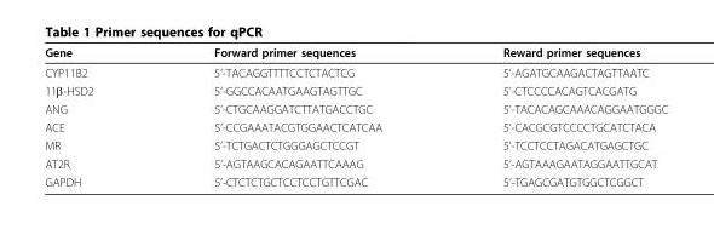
<table><thead><tr><td>Gene</td><td>Forward primer sequences</td><td>Reward primer sequences</td></tr></thead><tbody><tr><td>CYP11B2</td><td>5’-TACAGGTTTTCCTCTACTCG</td><td>5’-AGATGCAAGACTAGTTAATC</td></tr><tr><td>11β-HSD2</td><td>5’-GGCCACAATGAAGTAGTTGC</td><td>5’-CTCCCCACAGTCACGATG</td></tr><tr><td>ANG</td><td>5’-CTGCAAGGATCTTATGACCTGC</td><td>5’-TACACAGCAAACAGGAATGGGC</td></tr><tr><td>ACE</td><td>5’-CCGAAATACGTGGAACTCATCAA</td><td>5’-CACGCGTCCCCTGCATCTACA</td></tr><tr><td>MR</td><td>5’-TCTGACTCTGGGAGCTCCGT</td><td>5’-TCCTCCTAGACATGAGCTGC</td></tr><tr><td>AT2R</td><td>5’-AGTAAGCACAGAATTCAAAG</td><td>5’-AGTAAAGAATAGGAATTGCAT</td></tr><tr><td>GAPDH</td><td>5’-CTCTCTGCTCCTCCTGTTCGAC</td><td>5’-TGAGCGATGTGGCTCGGCT</td></tr></tbody></table>